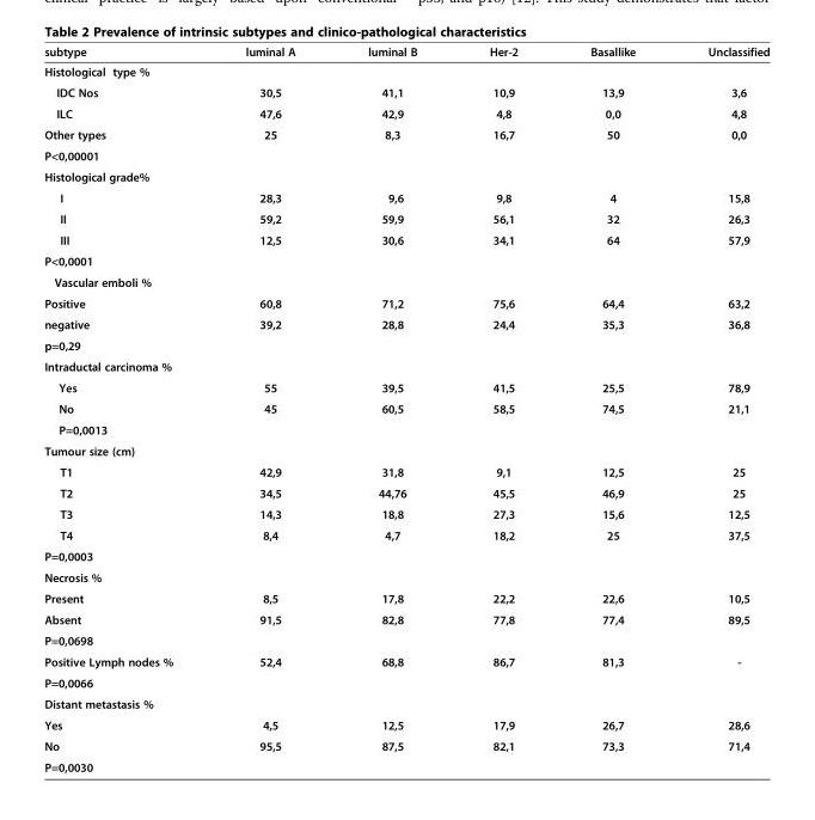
<table><thead><tr><td>subtype</td><td>luminal A</td><td>luminal B</td><td>Her-2</td><td>Basallike</td><td>Unclassified</td></tr></thead><tbody><tr><td colspan="6">Histological type %</td></tr><tr><td>IDC Nos</td><td>30,5</td><td>41,1</td><td>10,9</td><td>13,9</td><td>3,6</td></tr><tr><td>ILC</td><td>47,6</td><td>42,9</td><td>4,8</td><td>0,0</td><td>4,8</td></tr><tr><td>Other types</td><td>25</td><td>8,3</td><td>16,7</td><td>50</td><td>0,0</td></tr><tr><td colspan="6">P&lt;0,00001</td></tr><tr><td colspan="6">Histological grade%</td></tr><tr><td>I</td><td>28,3</td><td>9,6</td><td>9,8</td><td>4</td><td>15,8</td></tr><tr><td>II</td><td>59,2</td><td>59,9</td><td>56,1</td><td>32</td><td>26,3</td></tr><tr><td>III</td><td>12,5</td><td>30,6</td><td>34,1</td><td>64</td><td>57,9</td></tr><tr><td colspan="6">P&lt;0,0001</td></tr><tr><td colspan="6">Vascular emboli %</td></tr><tr><td>Positive</td><td>60,8</td><td>71,2</td><td>75,6</td><td>64,4</td><td>63,2</td></tr><tr><td>negative</td><td>39,2</td><td>28,8</td><td>24,4</td><td>35,3</td><td>36,8</td></tr><tr><td colspan="6">p=0,29</td></tr><tr><td colspan="6">Intraductal carcinoma %</td></tr><tr><td>Yes</td><td>55</td><td>39,5</td><td>41,5</td><td>25,5</td><td>78,9</td></tr><tr><td>No</td><td>45</td><td>60,5</td><td>58,5</td><td>74,5</td><td>21,1</td></tr><tr><td colspan="6">P=0,0013</td></tr><tr><td colspan="6">Tumour size (cm)</td></tr><tr><td>T1</td><td>42,9</td><td>31,8</td><td>9,1</td><td>12,5</td><td>25</td></tr><tr><td>T2</td><td>34,5</td><td>44,76</td><td>45,5</td><td>46,9</td><td>25</td></tr><tr><td>T3</td><td>14,3</td><td>18,8</td><td>27,3</td><td>15,6</td><td>12,5</td></tr><tr><td>T4</td><td>8,4</td><td>4,7</td><td>18,2</td><td>25</td><td>37,5</td></tr><tr><td colspan="6">P=0,0003</td></tr><tr><td colspan="6">Necrosis %</td></tr><tr><td>Present</td><td>8,5</td><td>17,8</td><td>22,2</td><td>22,6</td><td>10,5</td></tr><tr><td>Absent</td><td>91,5</td><td>82,8</td><td>77,8</td><td>77,4</td><td>89,5</td></tr><tr><td colspan="6">P=0,0698</td></tr><tr><td>Positive Lymph nodes %</td><td>52,4</td><td>68,8</td><td>86,7</td><td>81,3</td><td>-</td></tr><tr><td colspan="6">P=0,0066</td></tr><tr><td colspan="6">Distant metastasis %</td></tr><tr><td>Yes</td><td>4,5</td><td>12,5</td><td>17,9</td><td>26,7</td><td>28,6</td></tr><tr><td>No</td><td>95,5</td><td>87,5</td><td>82,1</td><td>73,3</td><td>71,4</td></tr><tr><td>P=0,0030</td><td></td><td></td><td></td><td></td><td></td></tr></tbody></table>